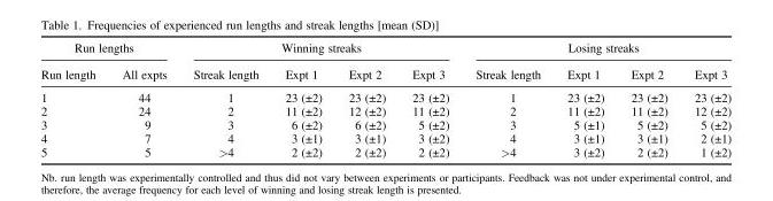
<table><thead><tr><td colspan="2">Run lengths</td><td colspan="4">Winning streaks</td><td colspan="4">Losing streaks</td></tr><tr><td>Run length</td><td>All expts</td><td>Streak length</td><td>Expt 1</td><td>Expt 2</td><td>Expt 3</td><td>Streak length</td><td>Expt 1</td><td>Expt 2</td><td>Expt 3</td></tr></thead><tbody><tr><td>1</td><td>44</td><td>1</td><td>23 (±2)</td><td>23 (±2)</td><td>23 (±2)</td><td>1</td><td>23 (±2)</td><td>23 (±2)</td><td>23 (±2)</td></tr><tr><td>2</td><td>24</td><td>2</td><td>11 (±2)</td><td>12 (±2)</td><td>11 (±2)</td><td>2</td><td>11 (±2)</td><td>11 (±2)</td><td>12 (±2)</td></tr><tr><td>3</td><td>9</td><td>3</td><td>6 (±2)</td><td>6 (±2)</td><td>5 (±2)</td><td>3</td><td>5 (±1)</td><td>5 (±2)</td><td>5 (±2)</td></tr><tr><td>4</td><td>7</td><td>4</td><td>3 (±1)</td><td>3 (±1)</td><td>3 (±2)</td><td>4</td><td>3 (±1)</td><td>3 (±1)</td><td>2 (±1)</td></tr><tr><td>5</td><td>5</td><td>&gt;4</td><td>2 (±2)</td><td>2 (±2)</td><td>2 (±2)</td><td>&gt;4</td><td>3 (±2)</td><td>2 (±2)</td><td>1 (±2)</td></tr></tbody></table>